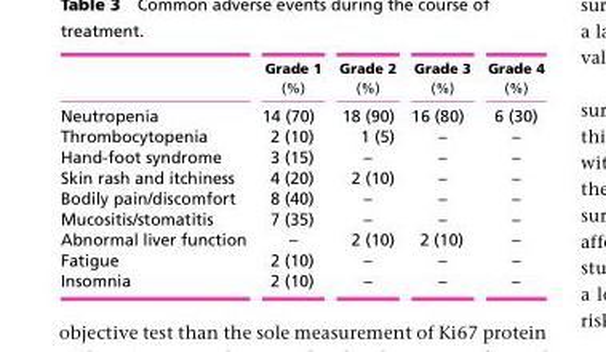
<table><thead><tr><td></td><td>Grade 1 (%)</td><td>Grade 2 (%)</td><td>Grade 3 (%)</td><td>Grade 4 (%)</td></tr></thead><tbody><tr><td>Neutropenia</td><td>14 (70)</td><td>18 (90)</td><td>16 (80)</td><td>6 (30)</td></tr><tr><td>Thrombocytopenia</td><td>2 (10)</td><td>1 (5)</td><td>–</td><td>–</td></tr><tr><td>Hand-foot syndrome</td><td>3 (15)</td><td>–</td><td>–</td><td>–</td></tr><tr><td>Skin rash and itchiness</td><td>4 (20)</td><td>2 (10)</td><td>–</td><td>–</td></tr><tr><td>Bodily pain/discomfort</td><td>8 (40)</td><td>–</td><td>–</td><td>–</td></tr><tr><td>Mucositis/stomatitis</td><td>7 (35)</td><td>–</td><td>–</td><td>–</td></tr><tr><td>Abnormal liver function</td><td>–</td><td>2 (10)</td><td>2 (10)</td><td>–</td></tr><tr><td>Fatigue</td><td>2 (10)</td><td>–</td><td>–</td><td>–</td></tr><tr><td>Insomnia</td><td>2 (10)</td><td>–</td><td>–</td><td>–</td></tr></tbody></table>